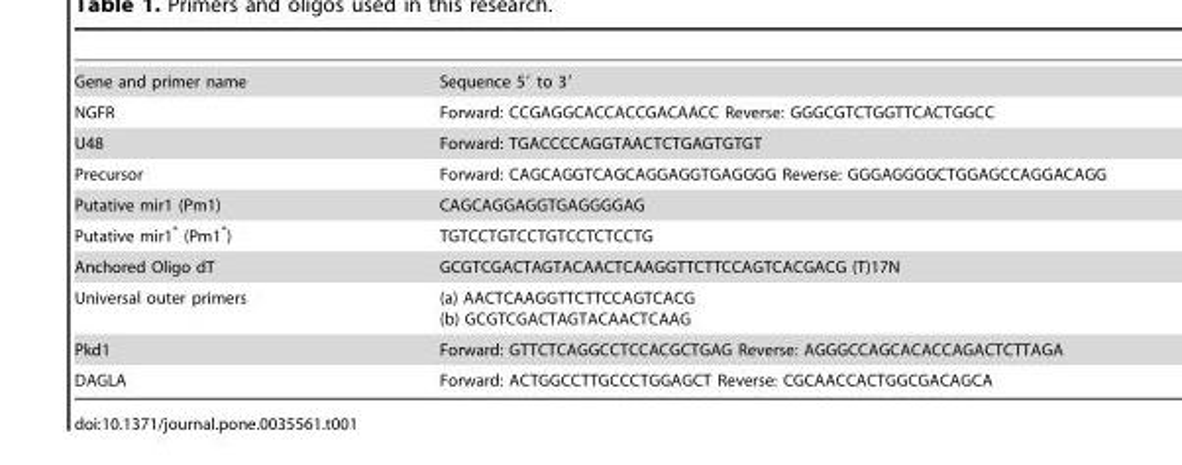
<table><tbody><tr><td>Gene and primer name</td><td>Sequence 5′ to 3′</td></tr><tr><td>NGFR</td><td>Forward: CCGAGGCACCACCGACAACC Reverse: GGGCGTCTGGTTCACTGGCC</td></tr><tr><td>U48</td><td>Forward: TGACCCCAGGTAACTCTGAGTGTGT</td></tr><tr><td>Precursor</td><td>Forward: CAGCAGGTCAGCAGGAGGTGAGGGG Reverse: GGGAGGGGCTGGAGCCAGGACAGG</td></tr><tr><td>Putative mir1 (Pm1)</td><td>CAGCAGGAGGTGAGGGGAG</td></tr><tr><td>Putative mir1* (Pm1*)</td><td>TGTCCTGTCCTGTCCTCTCCTG</td></tr><tr><td>Anchored Oligo dT</td><td>GCGTCGACTAGTACAACTCAAGGTTCTTCCAGTCACGACG (T)17N</td></tr><tr><td>Universal outer primers</td><td>(a) AACTCAAGGTTCTTCCAGTCACG (b) GCGTCGACTAGTACAACTCAAG</td></tr><tr><td>Pkd1</td><td>Forward: GTTCTCAGGCCTCCACGCTGAG Reverse: AGGGCCAGCACACCAGACTCTTAGA</td></tr><tr><td>DAGLA</td><td>Forward: ACTGGCCTTGCCCTGGAGCT Reverse: CGCAACCACTGGCGACAGCA</td></tr></tbody></table>